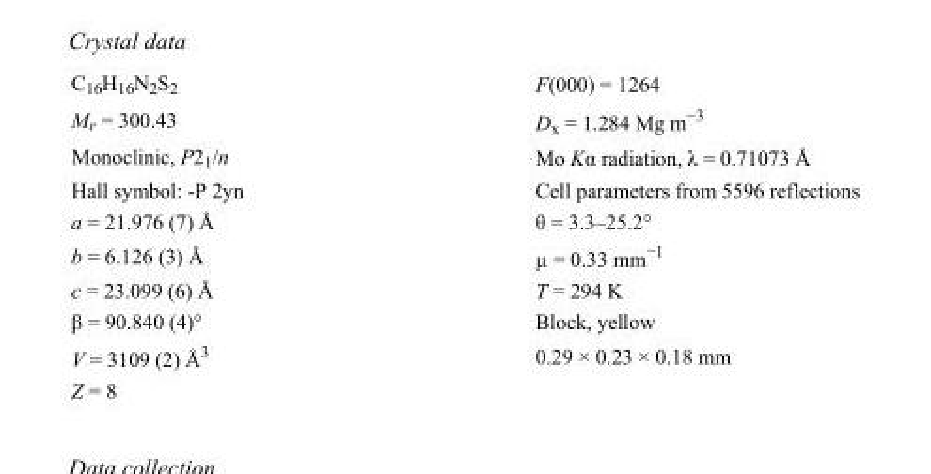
<table><tbody><tr><td>C<sub>16</sub>H<sub>16</sub>N<sub>2</sub>S<sub>2</sub></td><td>F(000) = 1264</td></tr><tr><td>M<sub>r</sub> = 300.43</td><td>D<sub>x</sub> = 1.284 Mg m<sup>−3</sup></td></tr><tr><td>Monoclinic, P2<sub>1</sub>/n</td><td>Mo Kα radiation, λ = 0.71073 Å</td></tr><tr><td>Hall symbol: -P 2yn</td><td>Cell parameters from 5596 reflections</td></tr><tr><td>a = 21.976 (7) Å</td><td>θ = 3.3–25.2°</td></tr><tr><td>b = 6.126 (3) Å</td><td>µ = 0.33 mm<sup>−1</sup></td></tr><tr><td>c = 23.099 (6) Å</td><td>T = 294 K</td></tr><tr><td>β = 90.840 (4)°</td><td>Block, yellow</td></tr><tr><td>V = 3109 (2) Å<sup>3</sup></td><td>0.29 × 0.23 × 0.18 mm</td></tr><tr><td>Z = 8</td><td></td></tr></tbody></table>